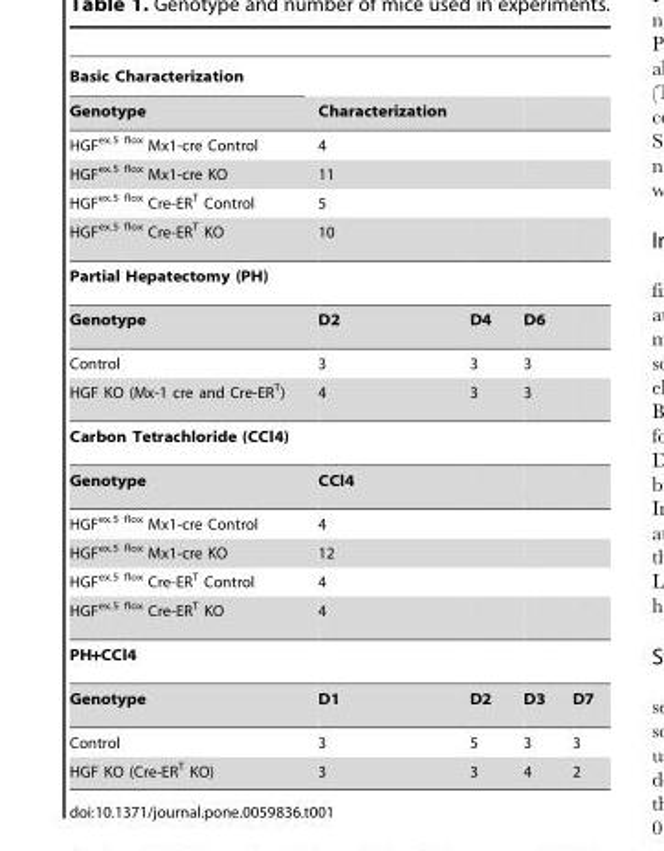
<table><thead><tr><td rowspan="2">Basic Characterization Genotype</td><td rowspan="2">Characterization</td><td rowspan="2"></td><td rowspan="2"></td><td rowspan="2"></td></tr><tr></tr></thead><tbody><tr><td>HGF<sup>ex.5 flox</sup> Mx1-cre Control</td><td>4</td><td></td><td></td><td></td></tr><tr><td>HGF<sup>ex.5 flox</sup> Mx1-cre KO</td><td>11</td><td></td><td></td><td></td></tr><tr><td>HGF<sup>ex.5 flox</sup> Cre-ER<sup>T</sup> Control</td><td>5</td><td></td><td></td><td></td></tr><tr><td>HGF<sup>ex.5 flox</sup> Cre-ER<sup>T</sup> KO</td><td>10</td><td></td><td></td><td></td></tr><tr><td colspan="5">Partial Hepatectomy (PH)</td></tr><tr><td>Genotype</td><td>D2</td><td>D4</td><td>D6</td><td></td></tr><tr><td>Control</td><td>3</td><td>3</td><td>3</td><td></td></tr><tr><td>HGF KO (Mx-1 cre and Cre-ER<sup>T</sup>)</td><td>4</td><td>3</td><td>3</td><td></td></tr><tr><td colspan="5">Carbon Tetrachloride (CCl4)</td></tr><tr><td>Genotype</td><td>CCl4</td><td></td><td></td><td></td></tr><tr><td>HGF<sup>ex.5 flox</sup> Mx1-cre Control</td><td>4</td><td></td><td></td><td></td></tr><tr><td>HGF<sup>ex.5 flox</sup> Mx1-cre KO</td><td>12</td><td></td><td></td><td></td></tr><tr><td>HGF<sup>ex.5 flox</sup> Cre-ER<sup>T</sup> Control</td><td>4</td><td></td><td></td><td></td></tr><tr><td>HGF<sup>ex.5 flox</sup> Cre-ER<sup>T</sup> KO</td><td>4</td><td></td><td></td><td></td></tr><tr><td colspan="5">PH+CCl4</td></tr><tr><td>Genotype</td><td>D1</td><td>D2</td><td>D3</td><td>D7</td></tr><tr><td>Control</td><td>3</td><td>5</td><td>3</td><td>3</td></tr><tr><td>HGF KO (Cre-ER<sup>T</sup> KO)</td><td>3</td><td>3</td><td>4</td><td>2</td></tr></tbody></table>